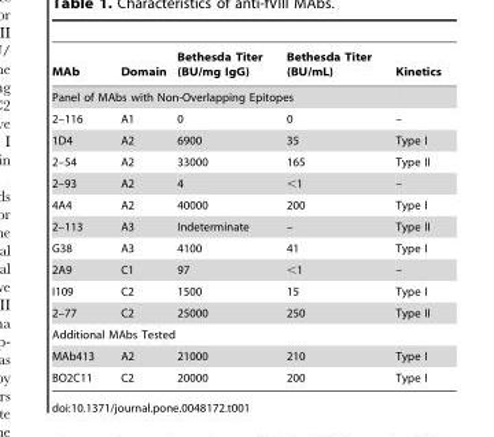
<table><thead><tr><td>MAb</td><td>Domain</td><td>Bethesda Titer (BU/mg IgG)</td><td>Bethesda Titer (BU/mL)</td><td>Kinetics</td></tr></thead><tbody><tr><td colspan="5">Panel of MAbs with Non-Overlapping Epitopes</td></tr><tr><td>2–116</td><td>A1</td><td>0</td><td>0</td><td>–</td></tr><tr><td>1D4</td><td>A2</td><td>6900</td><td>35</td><td>Type I</td></tr><tr><td>2–54</td><td>A2</td><td>33000</td><td>165</td><td>Type II</td></tr><tr><td>2–93</td><td>A2</td><td>4</td><td>&lt;1</td><td>–</td></tr><tr><td>4A4</td><td>A2</td><td>40000</td><td>200</td><td>Type I</td></tr><tr><td>2–113</td><td>A3</td><td>Indeterminate</td><td>–</td><td>Type II</td></tr><tr><td>G38</td><td>A3</td><td>4100</td><td>41</td><td>Type I</td></tr><tr><td>2A9</td><td>C1</td><td>97</td><td>&lt;1</td><td>–</td></tr><tr><td>I109</td><td>C2</td><td>1500</td><td>15</td><td>Type I</td></tr><tr><td>2–77</td><td>C2</td><td>25000</td><td>250</td><td>Type II</td></tr><tr><td colspan="5">Additional MAbs Tested</td></tr><tr><td>MAb413</td><td>A2</td><td>21000</td><td>210</td><td>Type I</td></tr><tr><td>BO2C11</td><td>C2</td><td>20000</td><td>200</td><td>Type I</td></tr></tbody></table>